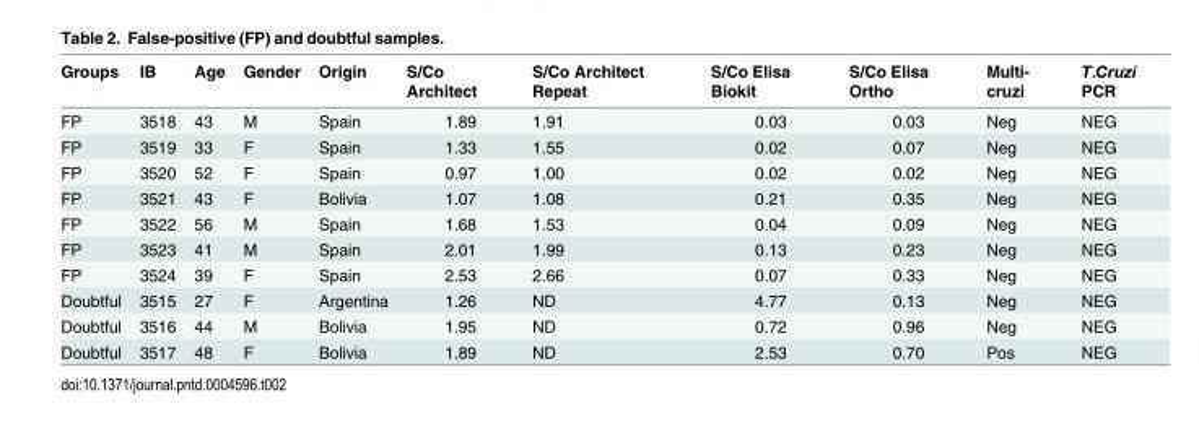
<table><thead><tr><td>Groups</td><td>IB</td><td>Age</td><td>Gender</td><td>Origin</td><td>S/Co Architect</td><td>S/Co Architect Repeat</td><td>S/Co Elisa Biokit</td><td>S/Co Elisa Ortho</td><td>Multi- cruzi</td><td>T.Cruzi PCR</td></tr></thead><tbody><tr><td>FP</td><td>3518</td><td>43</td><td>M</td><td>Spain</td><td>1.89</td><td>1.91</td><td>0.03</td><td>0.03</td><td>Neg</td><td>NEG</td></tr><tr><td>FP</td><td>3519</td><td>33</td><td>F</td><td>Spain</td><td>1.33</td><td>1.55</td><td>0.02</td><td>0.07</td><td>Neg</td><td>NEG</td></tr><tr><td>FP</td><td>3520</td><td>52</td><td>F</td><td>Spain</td><td>0.97</td><td>1.00</td><td>0.02</td><td>0.02</td><td>Neg</td><td>NEG</td></tr><tr><td>FP</td><td>3521</td><td>43</td><td>F</td><td>Bolivia</td><td>1.07</td><td>1.08</td><td>0.21</td><td>0.35</td><td>Neg</td><td>NEG</td></tr><tr><td>FP</td><td>3522</td><td>56</td><td>M</td><td>Spain</td><td>1.68</td><td>1.53</td><td>0.04</td><td>0.09</td><td>Neg</td><td>NEG</td></tr><tr><td>FP</td><td>3523</td><td>41</td><td>M</td><td>Spain</td><td>2.01</td><td>1.99</td><td>0.13</td><td>0.23</td><td>Neg</td><td>NEG</td></tr><tr><td>FP</td><td>3524</td><td>39</td><td>F</td><td>Spain</td><td>2.53</td><td>2.66</td><td>0.07</td><td>0.33</td><td>Neg</td><td>NEG</td></tr><tr><td>Doubtful</td><td>3515</td><td>27</td><td>F</td><td>Argentina</td><td>1.26</td><td>ND</td><td>4.77</td><td>0.13</td><td>Neg</td><td>NEG</td></tr><tr><td>Doubtful</td><td>3516</td><td>44</td><td>M</td><td>Bolivia</td><td>1.95</td><td>ND</td><td>0.72</td><td>0.96</td><td>Neg</td><td>NEG</td></tr><tr><td>Doubtful</td><td>3517</td><td>48</td><td>F</td><td>Bolivia</td><td>1.89</td><td>ND</td><td>2.53</td><td>0.70</td><td>Pos</td><td>NEG</td></tr></tbody></table>